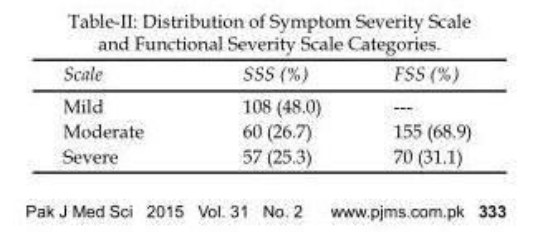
<table><thead><tr><td>Scale</td><td>SSS (%)</td><td>FSS (%)</td></tr></thead><tbody><tr><td>Mild</td><td>108 (48.0)</td><td>---</td></tr><tr><td>Moderate</td><td>60 (26.7)</td><td>155 (68.9)</td></tr><tr><td>Severe</td><td>57 (25.3)</td><td>70 (31.1)</td></tr></tbody></table>